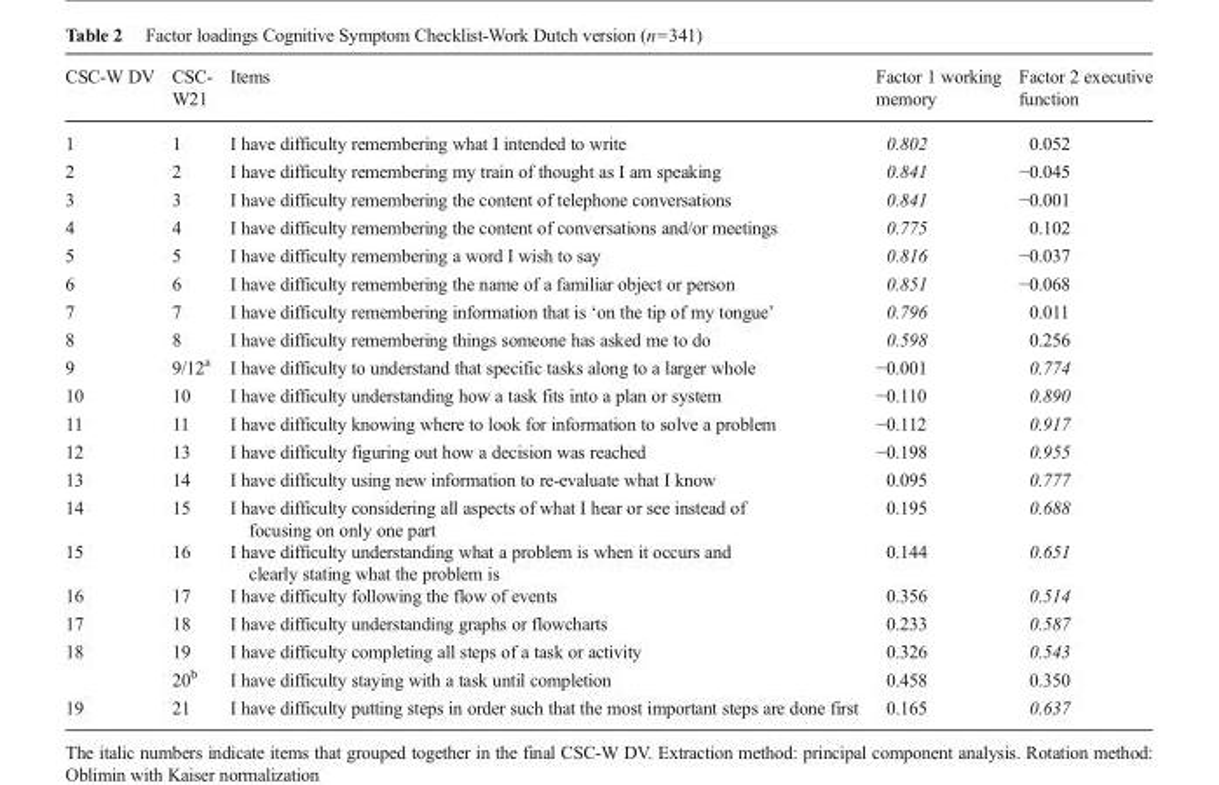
<table><thead><tr><td>CSC-W DV</td><td>CSC- W21</td><td>Items</td><td>Factor 1 working memory</td><td>Factor 2 executive function</td></tr></thead><tbody><tr><td>1</td><td>1</td><td>I have difficulty remembering what I intended to write</td><td>0.802</td><td>0.052</td></tr><tr><td>2</td><td>2</td><td>I have difficulty remembering my train of thought as I am speaking</td><td>0.841</td><td>−0.045</td></tr><tr><td>3</td><td>3</td><td>I have difficulty remembering the content of telephone conversations</td><td>0.841</td><td>−0.001</td></tr><tr><td>4</td><td>4</td><td>I have difficulty remembering the content of conversations and/or meetings</td><td>0.775</td><td>0.102</td></tr><tr><td>5</td><td>5</td><td>I have difficulty remembering a word I wish to say</td><td>0.816</td><td>−0.037</td></tr><tr><td>6</td><td>6</td><td>I have difficulty remembering the name of a familiar object or person</td><td>0.851</td><td>−0.068</td></tr><tr><td>7</td><td>7</td><td>I have difficulty remembering information that is ‘on the tip of my tongue’</td><td>0.796</td><td>0.011</td></tr><tr><td>8</td><td>8</td><td>I have difficulty remembering things someone has asked me to do</td><td>0.598</td><td>0.256</td></tr><tr><td>9</td><td>9/12<sup>a</sup></td><td>I have difficulty to understand that specific tasks along to a larger whole</td><td>−0.001</td><td>0.774</td></tr><tr><td>10</td><td>10</td><td>I have difficulty understanding how a task fits into a plan or system</td><td>−0.110</td><td>0.890</td></tr><tr><td>11</td><td>11</td><td>I have difficulty knowing where to look for information to solve a problem</td><td>−0.112</td><td>0.917</td></tr><tr><td>12</td><td>13</td><td>I have difficulty figuring out how a decision was reached</td><td>−0.198</td><td>0.955</td></tr><tr><td>13</td><td>14</td><td>I have difficulty using new information to re-evaluate what I know</td><td>0.095</td><td>0.777</td></tr><tr><td>14</td><td>15</td><td>I have difficulty considering all aspects of what I hear or see instead of focusing on only one part</td><td>0.195</td><td>0.688</td></tr><tr><td>15</td><td>16</td><td>I have difficulty understanding what a problem is when it occurs and clearly stating what the problem is</td><td>0.144</td><td>0.651</td></tr><tr><td>16</td><td>17</td><td>I have difficulty following the flow of events</td><td>0.356</td><td>0.514</td></tr><tr><td>17</td><td>18</td><td>I have difficulty understanding graphs or flowcharts</td><td>0.233</td><td>0.587</td></tr><tr><td rowspan="2">18</td><td>19</td><td>I have difficulty completing all steps of a task or activity</td><td>0.326</td><td>0.543</td></tr><tr><td>20<sup>b</sup></td><td>I have difficulty staying with a task until completion</td><td>0.458</td><td>0.350</td></tr><tr><td>19</td><td>21</td><td>I have difficulty putting steps in order such that the most important steps are done first</td><td>0.165</td><td>0.637</td></tr></tbody></table>